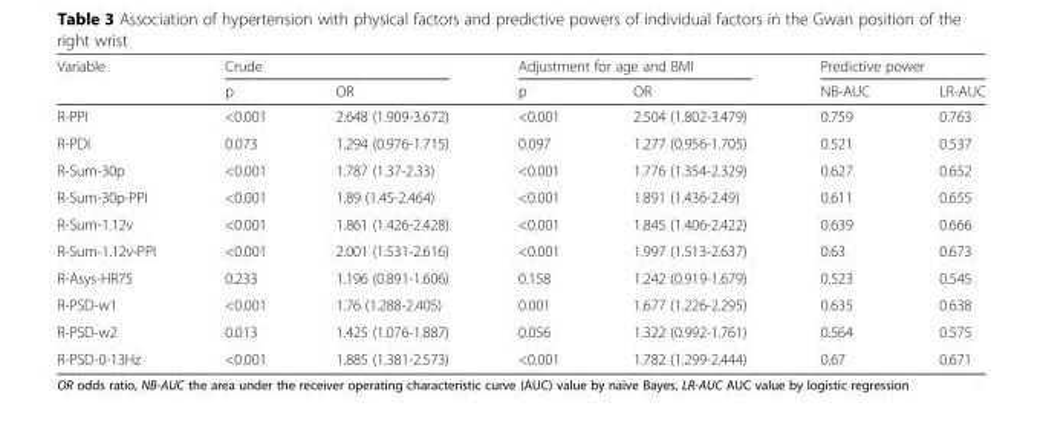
<table><thead><tr><td rowspan="2">Variable</td><td rowspan="2">Crude p</td><td rowspan="2">OR</td><td colspan="2">Adjustment for age and BMI</td><td colspan="2">Predictive power</td></tr><tr><td>p</td><td>OR</td><td>NB-AUC</td><td>LR-AUC</td></tr></thead><tbody><tr><td>R-PPI</td><td>&lt;0.001</td><td>2.648 (1.909-3.672)</td><td>&lt;0.001</td><td>2.504 (1.802-3.479)</td><td>0.759</td><td>0.763</td></tr><tr><td>R-PDI</td><td>0.073</td><td>1.294 (0.976-1.715)</td><td>0.097</td><td>1.277 (0.956-1.705)</td><td>0.521</td><td>0.537</td></tr><tr><td>R-Sum-30p</td><td>&lt;0.001</td><td>1.787 (1.37-2.33)</td><td>&lt;0.001</td><td>1.776 (1.354-2.329)</td><td>0.627</td><td>0.652</td></tr><tr><td>R-Sum-30p-PPI</td><td>&lt;0.001</td><td>1.89 (1.45-2.464)</td><td>&lt;0.001</td><td>1.891 (1.436-2.49)</td><td>0.611</td><td>0.655</td></tr><tr><td>R-Sum-1.12v</td><td>&lt;0.001</td><td>1.861 (1.426-2.428)</td><td>&lt;0.001</td><td>1.845 (1.406-2.422)</td><td>0.639</td><td>0.666</td></tr><tr><td>R-Sum-1.12v-PPI</td><td>&lt;0.001</td><td>2.001 (1.531-2.616)</td><td>&lt;0.001</td><td>1.997 (1.513-2.637)</td><td>0.63</td><td>0.673</td></tr><tr><td>R-Asys-HR75</td><td>0.233</td><td>1.196 (0.891-1.606)</td><td>0.158</td><td>1.242 (0.919-1.679)</td><td>0.523</td><td>0.545</td></tr><tr><td>R-PSD-w1</td><td>&lt;0.001</td><td>1.76 (1.288-2.405)</td><td>0.001</td><td>1.677 (1.226-2.295)</td><td>0.635</td><td>0.638</td></tr><tr><td>R-PSD-w2</td><td>0.013</td><td>1.425 (1.076-1.887)</td><td>0.056</td><td>1.322 (0.992-1.761)</td><td>0.564</td><td>0.575</td></tr><tr><td>R-PSD-0-13Hz</td><td>&lt;0.001</td><td>1.885 (1.381-2.573)</td><td>&lt;0.001</td><td>1.782 (1.299-2.444)</td><td>0.67</td><td>0.671</td></tr></tbody></table>